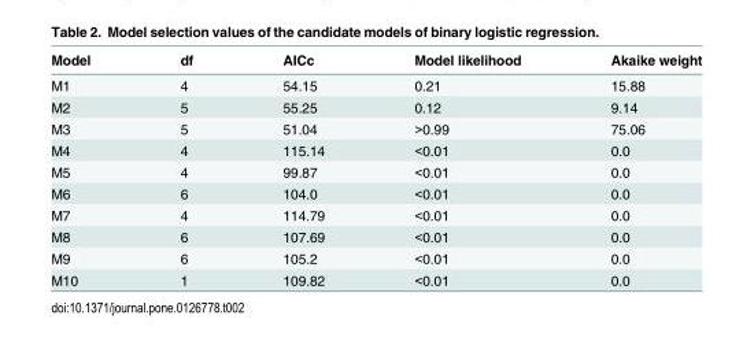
<table><thead><tr><td>Model</td><td>df</td><td>AICc</td><td>Model likelihood</td><td>Akaike weight</td></tr></thead><tbody><tr><td>M1</td><td>4</td><td>54.15</td><td>0.21</td><td>15.88</td></tr><tr><td>M2</td><td>5</td><td>55.25</td><td>0.12</td><td>9.14</td></tr><tr><td>M3</td><td>5</td><td>51.04</td><td>&gt;0.99</td><td>75.06</td></tr><tr><td>M4</td><td>4</td><td>115.14</td><td>&lt;0.01</td><td>0.0</td></tr><tr><td>M5</td><td>4</td><td>99.87</td><td>&lt;0.01</td><td>0.0</td></tr><tr><td>M6</td><td>6</td><td>104.0</td><td>&lt;0.01</td><td>0.0</td></tr><tr><td>M7</td><td>4</td><td>114.79</td><td>&lt;0.01</td><td>0.0</td></tr><tr><td>M8</td><td>6</td><td>107.69</td><td>&lt;0.01</td><td>0.0</td></tr><tr><td>M9</td><td>6</td><td>105.2</td><td>&lt;0.01</td><td>0.0</td></tr><tr><td>M10</td><td>1</td><td>109.82</td><td>&lt;0.01</td><td>0.0</td></tr></tbody></table>